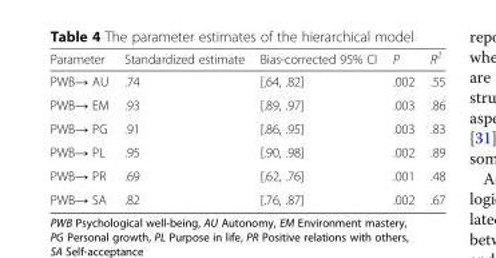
<table><thead><tr><td>Parameter</td><td>Standardized estimate</td><td>Bias-corrected 95% CI</td><td>P</td><td>R<sup>2</sup></td></tr></thead><tbody><tr><td>PWB→ AU</td><td>.74</td><td>[.64, .82]</td><td>.002</td><td>.55</td></tr><tr><td>PWB→ EM</td><td>.93</td><td>[.89, .97]</td><td>.003</td><td>.86</td></tr><tr><td>PWB→ PG</td><td>.91</td><td>[.86, .95]</td><td>.003</td><td>.83</td></tr><tr><td>PWB→ PL</td><td>.95</td><td>[.90, .98]</td><td>.002</td><td>.89</td></tr><tr><td>PWB→ PR</td><td>.69</td><td>[.62, .76]</td><td>.001</td><td>.48</td></tr><tr><td>PWB→ SA</td><td>.82</td><td>[.76, .87]</td><td>.002</td><td>.67</td></tr></tbody></table>